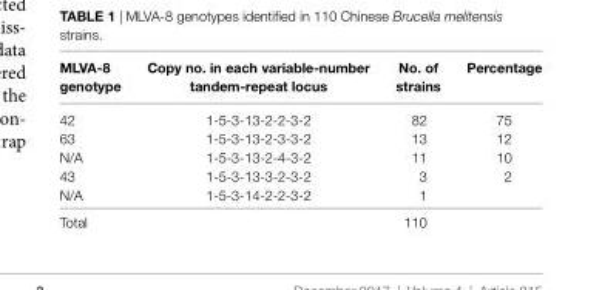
<table><thead><tr><td>MlVa-8 genotype</td><td>copy no. in each variable-number tandem-repeat locus</td><td>no. of strains</td><td>Percentage</td></tr></thead><tbody><tr><td>42</td><td>1-5-3-13-2-2-3-2</td><td>82</td><td>75</td></tr><tr><td>63</td><td>1-5-3-13-2-3-3-2</td><td>13</td><td>12</td></tr><tr><td>N/A</td><td>1-5-3-13-2-4-3-2</td><td>11</td><td>10</td></tr><tr><td>43</td><td>1-5-3-13-3-2-3-2</td><td>3</td><td>2</td></tr><tr><td>N/A</td><td>1-5-3-14-2-2-3-2</td><td>1</td><td></td></tr><tr><td>Total</td><td></td><td>110</td><td></td></tr></tbody></table>